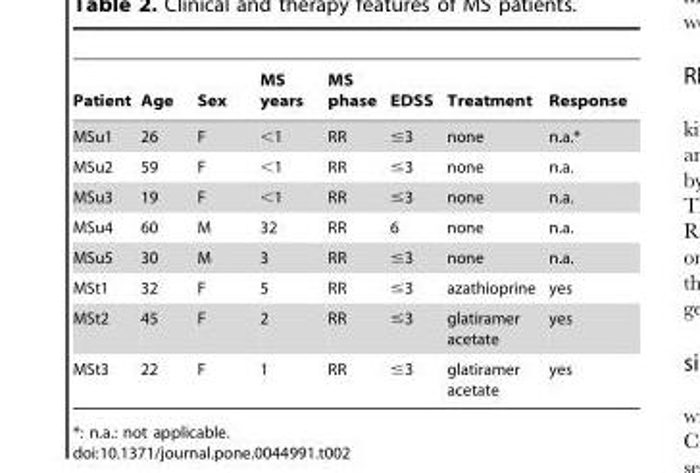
<table><thead><tr><td>Patient</td><td>Age</td><td>Sex</td><td>MS years</td><td>MS phase</td><td>EDSS</td><td>Treatment</td><td>Response</td></tr></thead><tbody><tr><td>MSu1</td><td>26</td><td>F</td><td>&lt;1</td><td>RR</td><td>≤3</td><td>none</td><td>n.a.*</td></tr><tr><td>MSu2</td><td>59</td><td>F</td><td>&lt;1</td><td>RR</td><td>≤3</td><td>none</td><td>n.a.</td></tr><tr><td>MSu3</td><td>19</td><td>F</td><td>&lt;1</td><td>RR</td><td>≤3</td><td>none</td><td>n.a.</td></tr><tr><td>MSu4</td><td>60</td><td>M</td><td>32</td><td>RR</td><td>6</td><td>none</td><td>n.a.</td></tr><tr><td>MSu5</td><td>30</td><td>M</td><td>3</td><td>RR</td><td>≤3</td><td>none</td><td>n.a.</td></tr><tr><td>MSt1</td><td>32</td><td>F</td><td>5</td><td>RR</td><td>≤3</td><td>azathioprine</td><td>yes</td></tr><tr><td>MSt2</td><td>45</td><td>F</td><td>2</td><td>RR</td><td>≤3</td><td>glatiramer acetate</td><td>yes</td></tr><tr><td>MSt3</td><td>22</td><td>F</td><td>1</td><td>RR</td><td>≤3</td><td>glatiramer acetate</td><td>yes</td></tr></tbody></table>